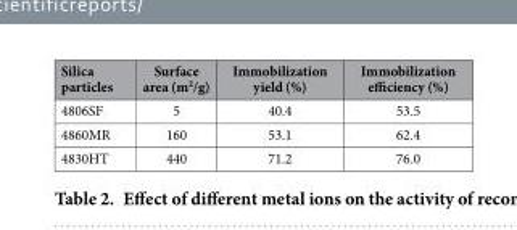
<table><thead><tr><td>Silica particles</td><td>Surface area (m<sup>2</sup>/g)</td><td>Immobilization yield (%)</td><td>Immobilization efficiency (%)</td></tr></thead><tbody><tr><td>4806SF</td><td>5</td><td>40.4</td><td>53.5</td></tr><tr><td>4860MR</td><td>160</td><td>53.1</td><td>62.4</td></tr><tr><td>4830HT</td><td>440</td><td>71.2</td><td>76.0</td></tr></tbody></table>